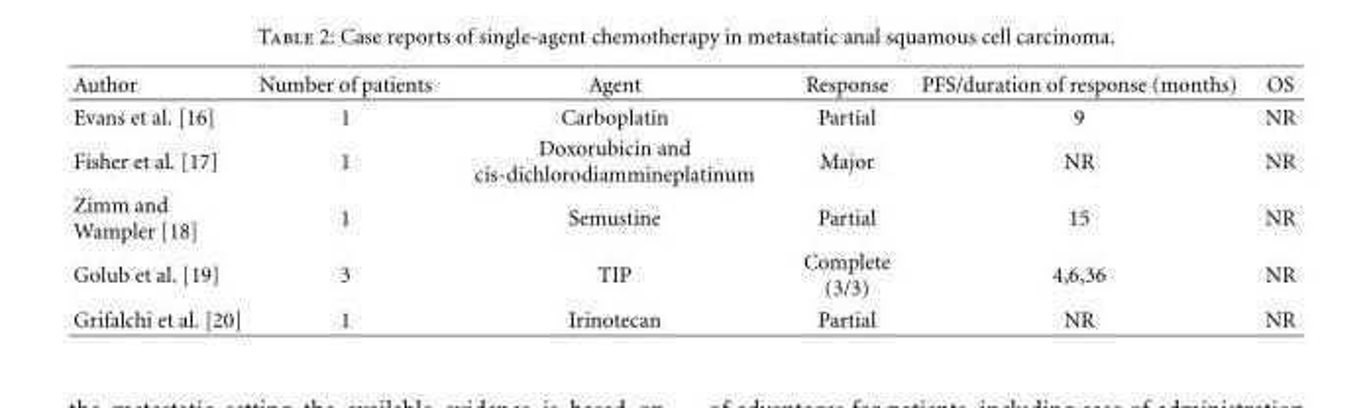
<table><thead><tr><td>Author</td><td>Number of patients</td><td>Agent</td><td>Response</td><td>PFS/duration of response (months)</td><td>OS</td></tr></thead><tbody><tr><td>Evans et al. [16]</td><td>1</td><td>Carboplatin</td><td>Partial</td><td>9</td><td>NR</td></tr><tr><td>Fisher et al. [17]</td><td>1</td><td>Doxorubicin and cis-dichlorodiammineplatinum</td><td>Major</td><td>NR</td><td>NR</td></tr><tr><td>Zimm and Wampler [18]</td><td>1</td><td>Semustine</td><td>Partial</td><td>15</td><td>NR</td></tr><tr><td>Golub et al. [19]</td><td>3</td><td>TIP</td><td>Complete (3/3)</td><td>4,6,36</td><td>NR</td></tr><tr><td>Grifalchi et al. [20]</td><td>1</td><td>Irinotecan</td><td>Partial</td><td>NR</td><td>NR</td></tr></tbody></table>